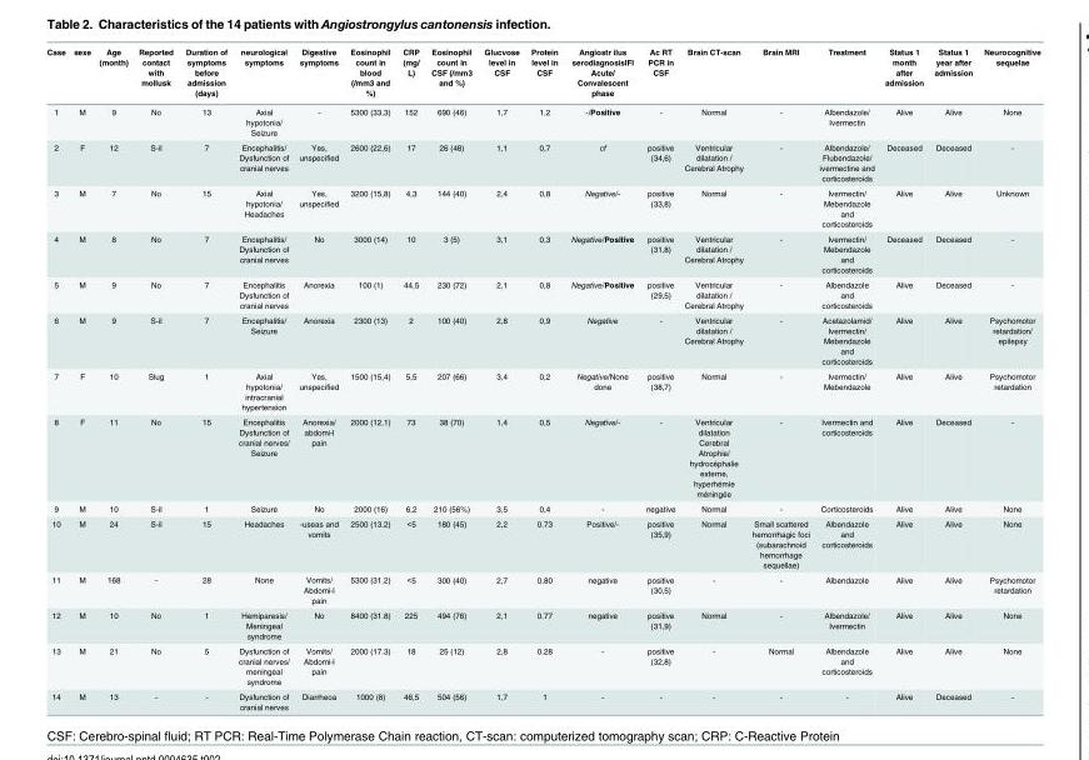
<table><thead><tr><td>Case</td><td>sexe</td><td>Age (month)</td><td>Reported contact with mollusk</td><td>Duration of symptoms before admission (days)</td><td>neurological symptoms</td><td>Digestive symptoms</td><td>Eosinophil count in blood (/mm3 and %)</td><td>CRP (mg/ L)</td><td>Eosinophil count in CSF (/mm3 and %)</td><td>Glucvose level in CSF</td><td>Protein level in CSF</td><td>Angiostr ilus serodiagnosisIFI Acute/ Convalescent phase</td><td>Ac RT PCR in CSF</td><td>Brain CT-scan</td><td>Brain MRI</td><td>Treatment</td><td>Status 1 month after admission</td><td>Status 1 year after admission</td><td>Neurocognitive sequelae</td></tr></thead><tbody><tr><td>1</td><td>M</td><td>9</td><td>No</td><td>13</td><td>Axial hypotonia/ Seizure</td><td>-</td><td>5300 (33,3)</td><td>152</td><td>690 (46)</td><td>1,7</td><td>1,2</td><td>-/Positive</td><td>-</td><td>Normal</td><td>-</td><td>Albendazole/ Ivermectin</td><td>Alive</td><td>Alive</td><td>None</td></tr><tr><td>2</td><td>F</td><td>12</td><td>S-il</td><td>7</td><td>Encephalitis/ Dysfunction of cranial nerves</td><td>Yes, unspecified</td><td>2600 (22,6)</td><td>17</td><td>26 (48)</td><td>1,1</td><td>0,7</td><td>cf</td><td>positive (34,6)</td><td>Ventricular dilatation / Cerebral Atrophy</td><td>-</td><td>Albendazole/ Flubendazole/ ivermectine and corticosteroids</td><td>Deceased</td><td>Deceased</td><td>-</td></tr><tr><td>3</td><td>M</td><td>7</td><td>No</td><td>15</td><td>Axial hypotonia/ Headaches</td><td>Yes, unspecified</td><td>3200 (15,8)</td><td>4,3</td><td>144 (40)</td><td>2,4</td><td>0,8</td><td>Negative/-</td><td>positive (33,8)</td><td>Normal</td><td>-</td><td>Ivermectin/ Mebendazole and corticosteroids</td><td>Alive</td><td>Alive</td><td>Unknown</td></tr><tr><td>4</td><td>M</td><td>8</td><td>No</td><td>7</td><td>Encephalitis/ Dysfunction of cranial nerves</td><td>No</td><td>3000 (14)</td><td>10</td><td>3 (5)</td><td>3,1</td><td>0,3</td><td>Negative/Positive</td><td>positive (31,8)</td><td>Ventricular dilatation / Cerebral Atrophy</td><td>-</td><td>Ivermectin/ Mebendazole and corticosteroids</td><td>Deceased</td><td>Deceased</td><td>-</td></tr><tr><td>5</td><td>M</td><td>9</td><td>No</td><td>7</td><td>Encephalitis Dysfunction of cranial nerves</td><td>Anorexia</td><td>100 (1)</td><td>44,5</td><td>230 (72)</td><td>2,1</td><td>0,8</td><td>Negative/Positive</td><td>positive (29,5)</td><td>Ventricular dilatation / Cerebral Atrophy</td><td>-</td><td>Albendazole and corticosteroids</td><td>Alive</td><td>Deceased</td><td>-</td></tr><tr><td>6</td><td>M</td><td>9</td><td>S-il</td><td>7</td><td>Encephalitis/ Seizure</td><td>Anorexia</td><td>2300 (13)</td><td>2</td><td>100 (40)</td><td>2,8</td><td>0,9</td><td>Negative</td><td>-</td><td>Ventricular dilatation / Cerebral Atrophy</td><td>-</td><td>Acetazolamid/ Ivermectin/ Mebendazole and corticosteroids</td><td>Alive</td><td>Alive</td><td>Psychomotor retardation/ epilepsy</td></tr><tr><td>7</td><td>F</td><td>10</td><td>Slug</td><td>1</td><td>Axial hypotonia/ intracranial hypertension</td><td>Yes, unspecified</td><td>1500 (15,4)</td><td>5,5</td><td>207 (66)</td><td>3,4</td><td>0,2</td><td>Negative/None done</td><td>positive (38,7)</td><td>Normal</td><td>-</td><td>Ivermectin/ Mebendazole</td><td>Alive</td><td>Alive</td><td>Psychomotor retardation</td></tr><tr><td>8</td><td>F</td><td>11</td><td>No</td><td>15</td><td>Encephalitis Dysfunction of cranial nerves/ Seizure</td><td>Anorexia/ abdomi-l pain</td><td>2000 (12,1)</td><td>73</td><td>38 (70)</td><td>1,4</td><td>0,5</td><td>Negative/-</td><td>-</td><td>Ventricular dilatation Cerebral Atrophie/ hydrocéphalie externe, hyperhémie méningée</td><td>-</td><td>Ivermectin and corticosteroids</td><td>Alive</td><td>Deceased</td><td>-</td></tr><tr><td>9</td><td>M</td><td>10</td><td>S-il</td><td>1</td><td>Seizure</td><td>No</td><td>2000 (16)</td><td>6,2</td><td>210 (56%)</td><td>3,5</td><td>0,4</td><td>-</td><td>negative</td><td>Normal</td><td>-</td><td>Corticosteroids</td><td>Alive</td><td>Alive</td><td>None</td></tr><tr><td>10</td><td>M</td><td>24</td><td>S-il</td><td>15</td><td>Headaches</td><td>-useas and vomits</td><td>2500 (13.2)</td><td>&lt;5</td><td>180 (45)</td><td>2,2</td><td>0.73</td><td>Positive/-</td><td>positive (35,9)</td><td>Normal</td><td>Small scattered hemorrhagic foci (subarachnoid hemorrhage sequellae)</td><td>Albendazole and corticosteroids</td><td>Alive</td><td>Alive</td><td>None</td></tr><tr><td>11</td><td>M</td><td>168</td><td>-</td><td>28</td><td>None</td><td>Vomits/ Abdomi-l pain</td><td>5300 (31.2)</td><td>&lt;5</td><td>300 (40)</td><td>2,7</td><td>0.80</td><td>negative</td><td>positive (30,5)</td><td>-</td><td>-</td><td>Albendazole</td><td>Alive</td><td>Alive</td><td>Psychomotor retardation</td></tr><tr><td>12</td><td>M</td><td>10</td><td>No</td><td>1</td><td>Hemiparesis/ Meningeal syndrome</td><td>No</td><td>8400 (31.8)</td><td>225</td><td>494 (76)</td><td>2,1</td><td>0.77</td><td>negative</td><td>positive (31,9)</td><td>Normal</td><td>-</td><td>Albendazole/ Ivermectin</td><td>Alive</td><td>Alive</td><td>None</td></tr><tr><td>13</td><td>M</td><td>21</td><td>No</td><td>5</td><td>Dysfunction of cranial nerves/ meningeal syndrome</td><td>Vomits/ Abdomi-l pain</td><td>2000 (17.3)</td><td>18</td><td>25 (12)</td><td>2,8</td><td>0.28</td><td>-</td><td>positive (32,8)</td><td>-</td><td>Normal</td><td>Albendazole and corticosteroids</td><td>Alive</td><td>Alive</td><td>None</td></tr><tr><td>14</td><td>M</td><td>13</td><td>-</td><td>-</td><td>Dysfunction of cranial nerves</td><td>Diarrheoa</td><td>1000 (8)</td><td>46,5</td><td>504 (56)</td><td>1,7</td><td>1</td><td>-</td><td>-</td><td>-</td><td>-</td><td>-</td><td>Alive</td><td>Deceased</td><td>-</td></tr></tbody></table>